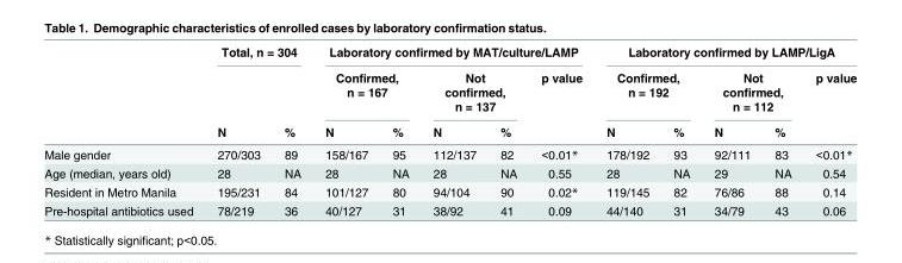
<table><thead><tr><td rowspan="3"></td><td colspan="2">Total, n = 304</td><td colspan="5">Laboratory confirmed by MAT/culture/LAMP</td><td colspan="5">Laboratory confirmed by LAMP/LigA</td></tr><tr><td rowspan="2">N</td><td rowspan="2">%</td><td colspan="2">Confirmed, n = 167</td><td colspan="2">Not confirmed, n = 137</td><td rowspan="2">p value</td><td colspan="2">Confirmed, n = 192</td><td colspan="2">Not confirmed, n = 112</td><td rowspan="2">p value</td></tr><tr><td>N</td><td>%</td><td>N</td><td>%</td><td>N</td><td>%</td><td>N</td><td>%</td></tr></thead><tbody><tr><td>Male gender</td><td>270/303</td><td>89</td><td>158/167</td><td>95</td><td>112/137</td><td>82</td><td>&lt;0.01*</td><td>178/192</td><td>93</td><td>92/111</td><td>83</td><td>&lt;0.01*</td></tr><tr><td>Age (median, years old)</td><td>28</td><td>NA</td><td>28</td><td>NA</td><td>28</td><td>NA</td><td>0.55</td><td>28</td><td>NA</td><td>29</td><td>NA</td><td>0.54</td></tr><tr><td>Resident in Metro Manila</td><td>195/231</td><td>84</td><td>101/127</td><td>80</td><td>94/104</td><td>90</td><td>0.02*</td><td>119/145</td><td>82</td><td>76/86</td><td>88</td><td>0.14</td></tr><tr><td>Pre-hospital antibiotics used</td><td>78/219</td><td>36</td><td>40/127</td><td>31</td><td>38/92</td><td>41</td><td>0.09</td><td>44/140</td><td>31</td><td>34/79</td><td>43</td><td>0.06</td></tr></tbody></table>